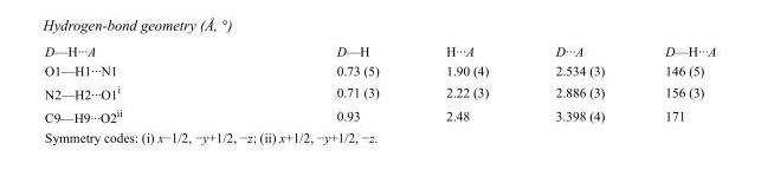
<table><tbody><tr><td>D—H···A</td><td>D—H</td><td>H···A</td><td>D···A</td><td>D—H···A</td></tr><tr><td>O1—H1···N1</td><td>0.73 (5)</td><td>1.90 (4)</td><td>2.534 (3)</td><td>146 (5)</td></tr><tr><td>N2—H2···O1<sup>i</sup></td><td>0.71 (3)</td><td>2.22 (3)</td><td>2.886 (3)</td><td>156 (3)</td></tr><tr><td>C9—H9···O2<sup>ii</sup></td><td>0.93</td><td>2.48</td><td>3.398 (4)</td><td>171</td></tr></tbody></table>